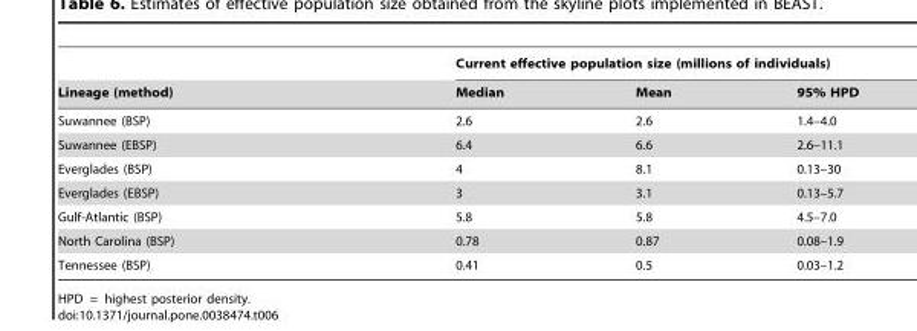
<table><thead><tr><td rowspan="2">Lineage (method)</td><td colspan="3">Current effective population size (millions of individuals)</td></tr><tr><td>Median</td><td>Mean</td><td>95% HPD</td></tr></thead><tbody><tr><td>Suwannee (BSP)</td><td>2.6</td><td>2.6</td><td>1.4–4.0</td></tr><tr><td>Suwannee (EBSP)</td><td>6.4</td><td>6.6</td><td>2.6–11.1</td></tr><tr><td>Everglades (BSP)</td><td>4</td><td>8.1</td><td>0.13–30</td></tr><tr><td>Everglades (EBSP)</td><td>3</td><td>3.1</td><td>0.13–5.7</td></tr><tr><td>Gulf-Atlantic (BSP)</td><td>5.8</td><td>5.8</td><td>4.5–7.0</td></tr><tr><td>North Carolina (BSP)</td><td>0.78</td><td>0.87</td><td>0.08–1.9</td></tr><tr><td>Tennessee (BSP)</td><td>0.41</td><td>0.5</td><td>0.03–1.2</td></tr></tbody></table>